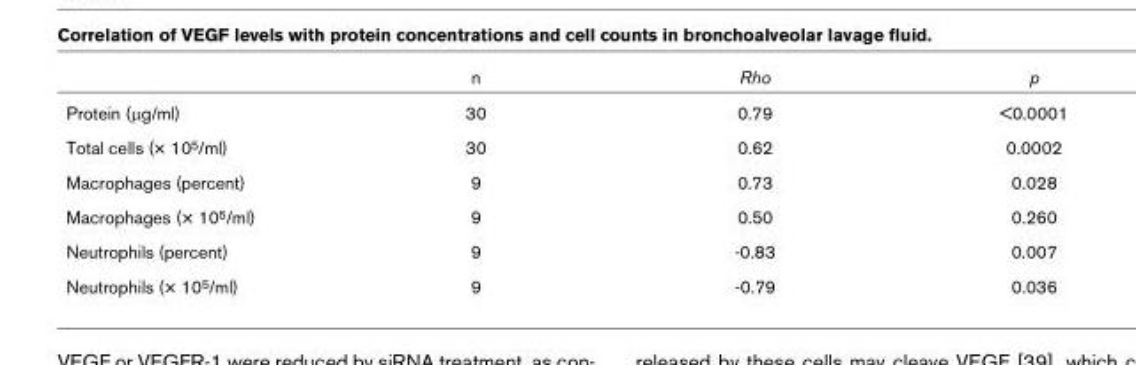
<table><thead><tr><td></td><td>n</td><td>Rho</td><td>p</td></tr></thead><tbody><tr><td>Protein (µg/ml)</td><td>30</td><td>0.79</td><td>&lt;0.0001</td></tr><tr><td>Total cells (× 105/ml)</td><td>30</td><td>0.62</td><td>0.0002</td></tr><tr><td>Macrophages (percent)</td><td>9</td><td>0.73</td><td>0.028</td></tr><tr><td>Macrophages (× 105/ml)</td><td>9</td><td>0.50</td><td>0.260</td></tr><tr><td>Neutrophils (percent)</td><td>9</td><td>-0.83</td><td>0.007</td></tr><tr><td>Neutrophils (× 105/ml)</td><td>9</td><td>-0.79</td><td>0.036</td></tr></tbody></table>